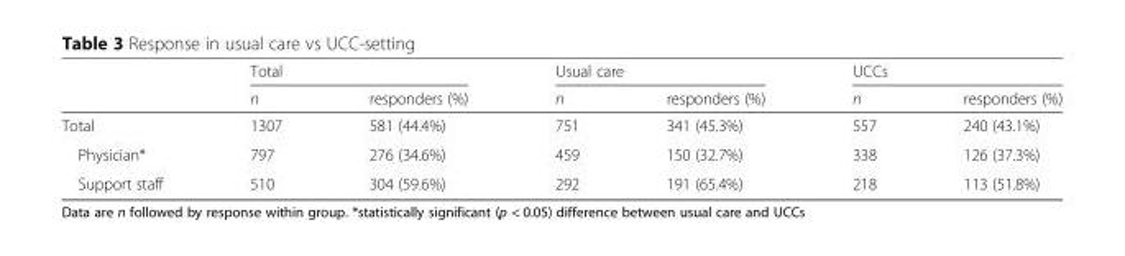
<table><thead><tr><td rowspan="2"></td><td colspan="2">Total</td><td colspan="2">Usual care</td><td colspan="2">UCCs</td></tr><tr><td>n</td><td>responders (%)</td><td>n</td><td>responders (%)</td><td>n</td><td>responders (%)</td></tr></thead><tbody><tr><td>Total</td><td>1307</td><td>581 (44.4%)</td><td>751</td><td>341 (45.3%)</td><td>557</td><td>240 (43.1%)</td></tr><tr><td>Physician*</td><td>797</td><td>276 (34.6%)</td><td>459</td><td>150 (32.7%)</td><td>338</td><td>126 (37.3%)</td></tr><tr><td>Support staff</td><td>510</td><td>304 (59.6%)</td><td>292</td><td>191 (65.4%)</td><td>218</td><td>113 (51.8%)</td></tr></tbody></table>